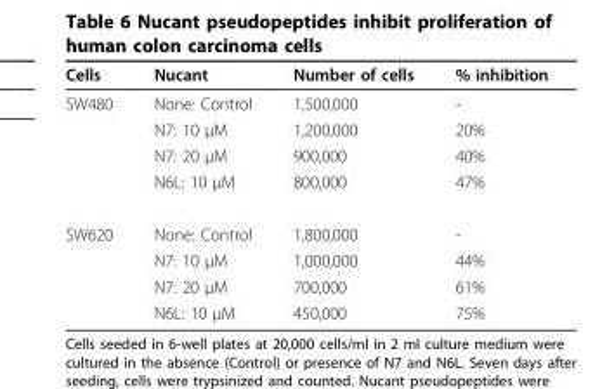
<table><thead><tr><td>Cells</td><td>Nucant</td><td>Number of cells</td><td>% inhibition</td></tr></thead><tbody><tr><td rowspan="4">SW480</td><td>None: Control</td><td>1,500,000</td><td>-</td></tr><tr><td>N7: 10 μM</td><td>1,200,000</td><td>20%</td></tr><tr><td>N7: 20 μM</td><td>900,000</td><td>40%</td></tr><tr><td>N6L: 10 μM</td><td>800,000</td><td>47%</td></tr><tr><td rowspan="4">SW620</td><td>None: Control</td><td>1,800,000</td><td>-</td></tr><tr><td>N7: 10 μM</td><td>1,000,000</td><td>44%</td></tr><tr><td>N7: 20 μM</td><td>700,000</td><td>61%</td></tr><tr><td>N6L: 10 μM</td><td>450,000</td><td>75%</td></tr></tbody></table>